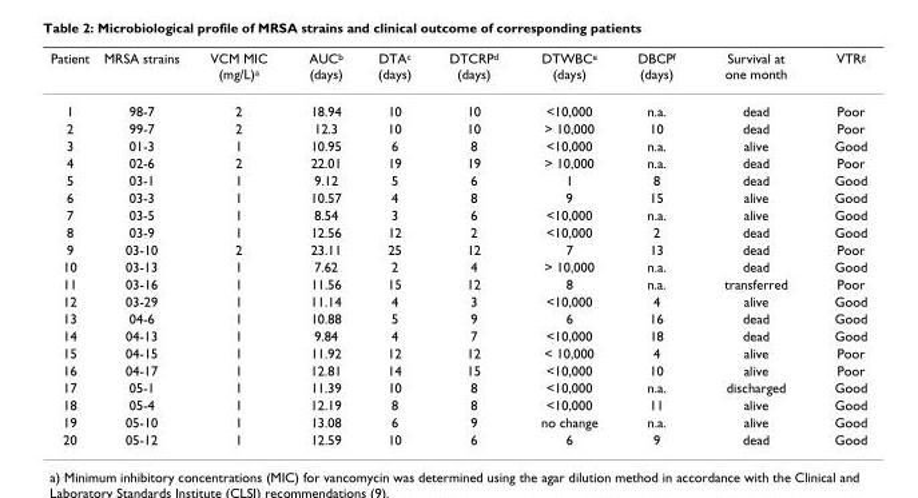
<table><thead><tr><td>Patient</td><td>MRSA strains</td><td>VCM MIC (mg/L)<sup>a</sup></td><td>AUC<sup>b</sup> (days)</td><td>DTA<sup>c</sup> (days)</td><td>DTCRP<sup>d</sup> (days)</td><td>DTWBC<sup>e</sup> (days)</td><td>DBCP<sup>f</sup> (days)</td><td>Survival at one month</td><td>VTR<sup>g</sup></td></tr></thead><tbody><tr><td>1</td><td>98-7</td><td>2</td><td>18.94</td><td>10</td><td>10</td><td>&lt;10,000</td><td>n.a.</td><td>dead</td><td>Poor</td></tr><tr><td>2</td><td>99-7</td><td>2</td><td>12.3</td><td>10</td><td>10</td><td>&gt; 10,000</td><td>10</td><td>dead</td><td>Poor</td></tr><tr><td>3</td><td>01-3</td><td>1</td><td>10.95</td><td>6</td><td>8</td><td>&lt;10,000</td><td>n.a.</td><td>alive</td><td>Good</td></tr><tr><td>4</td><td>02-6</td><td>2</td><td>22.01</td><td>19</td><td>19</td><td>&gt; 10,000</td><td>n.a.</td><td>dead</td><td>Poor</td></tr><tr><td>5</td><td>03-1</td><td>1</td><td>9.12</td><td>5</td><td>6</td><td>1</td><td>8</td><td>dead</td><td>Good</td></tr><tr><td>6</td><td>03-3</td><td>1</td><td>10.57</td><td>4</td><td>8</td><td>9</td><td>15</td><td>alive</td><td>Good</td></tr><tr><td>7</td><td>03-5</td><td>1</td><td>8.54</td><td>3</td><td>6</td><td>&lt;10,000</td><td>n.a.</td><td>alive</td><td>Good</td></tr><tr><td>8</td><td>03-9</td><td>1</td><td>12.56</td><td>12</td><td>2</td><td>&lt;10,000</td><td>2</td><td>dead</td><td>Good</td></tr><tr><td>9</td><td>03-10</td><td>2</td><td>23.11</td><td>25</td><td>12</td><td>7</td><td>13</td><td>dead</td><td>Poor</td></tr><tr><td>10</td><td>03-13</td><td>1</td><td>7.62</td><td>2</td><td>4</td><td>&gt; 10,000</td><td>n.a.</td><td>dead</td><td>Good</td></tr><tr><td>11</td><td>03-16</td><td>1</td><td>11.56</td><td>15</td><td>12</td><td>8</td><td>n.a.</td><td>transferred</td><td>Poor</td></tr><tr><td>12</td><td>03-29</td><td>1</td><td>11.14</td><td>4</td><td>3</td><td>&lt;10,000</td><td>4</td><td>alive</td><td>Good</td></tr><tr><td>13</td><td>04-6</td><td>1</td><td>10.88</td><td>5</td><td>9</td><td>6</td><td>16</td><td>dead</td><td>Good</td></tr><tr><td>14</td><td>04-13</td><td>1</td><td>9.84</td><td>4</td><td>7</td><td>&lt;10,000</td><td>18</td><td>dead</td><td>Good</td></tr><tr><td>15</td><td>04-15</td><td>1</td><td>11.92</td><td>12</td><td>12</td><td>&lt; 10,000</td><td>4</td><td>alive</td><td>Poor</td></tr><tr><td>16</td><td>04-17</td><td>1</td><td>12.81</td><td>14</td><td>15</td><td>&lt;10,000</td><td>10</td><td>alive</td><td>Poor</td></tr><tr><td>17</td><td>05-1</td><td>1</td><td>11.39</td><td>10</td><td>8</td><td>&lt;10,000</td><td>n.a.</td><td>discharged</td><td>Good</td></tr><tr><td>18</td><td>05-4</td><td>1</td><td>12.19</td><td>8</td><td>8</td><td>&lt;10,000</td><td>11</td><td>alive</td><td>Good</td></tr><tr><td>19</td><td>05-10</td><td>1</td><td>13.08</td><td>6</td><td>9</td><td>no change</td><td>n.a.</td><td>alive</td><td>Good</td></tr><tr><td>20</td><td>05-12</td><td>1</td><td>12.59</td><td>10</td><td>6</td><td>6</td><td>9</td><td>dead</td><td>Good</td></tr></tbody></table>